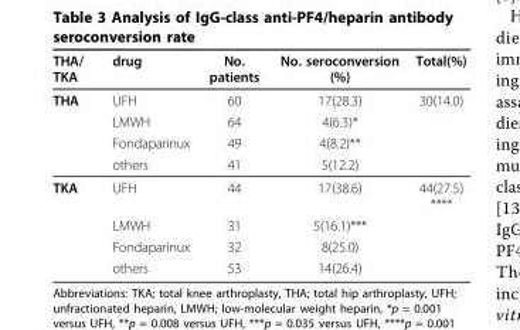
<table><thead><tr><td>THA/ TKA</td><td>drug</td><td>No. patients</td><td>No. seroconversion (%)</td><td>Total(%)</td></tr></thead><tbody><tr><td rowspan="4">THA</td><td>UFH</td><td>60</td><td>17(28.3)</td><td>30(14.0)</td></tr><tr><td>LMWH</td><td>64</td><td>4(6.3)*</td><td></td></tr><tr><td>Fondaparinux</td><td>49</td><td>4(8.2)**</td><td></td></tr><tr><td>others</td><td>41</td><td>5(12.2)</td><td></td></tr><tr><td rowspan="4">TKA</td><td>UFH</td><td>44</td><td>17(38.6)</td><td>44(27.5) ****</td></tr><tr><td>LMWH</td><td>31</td><td>5(16.1)***</td><td></td></tr><tr><td>Fondaparinux</td><td>32</td><td>8(25.0)</td><td></td></tr><tr><td>others</td><td>53</td><td>14(26.4)</td><td></td></tr></tbody></table>